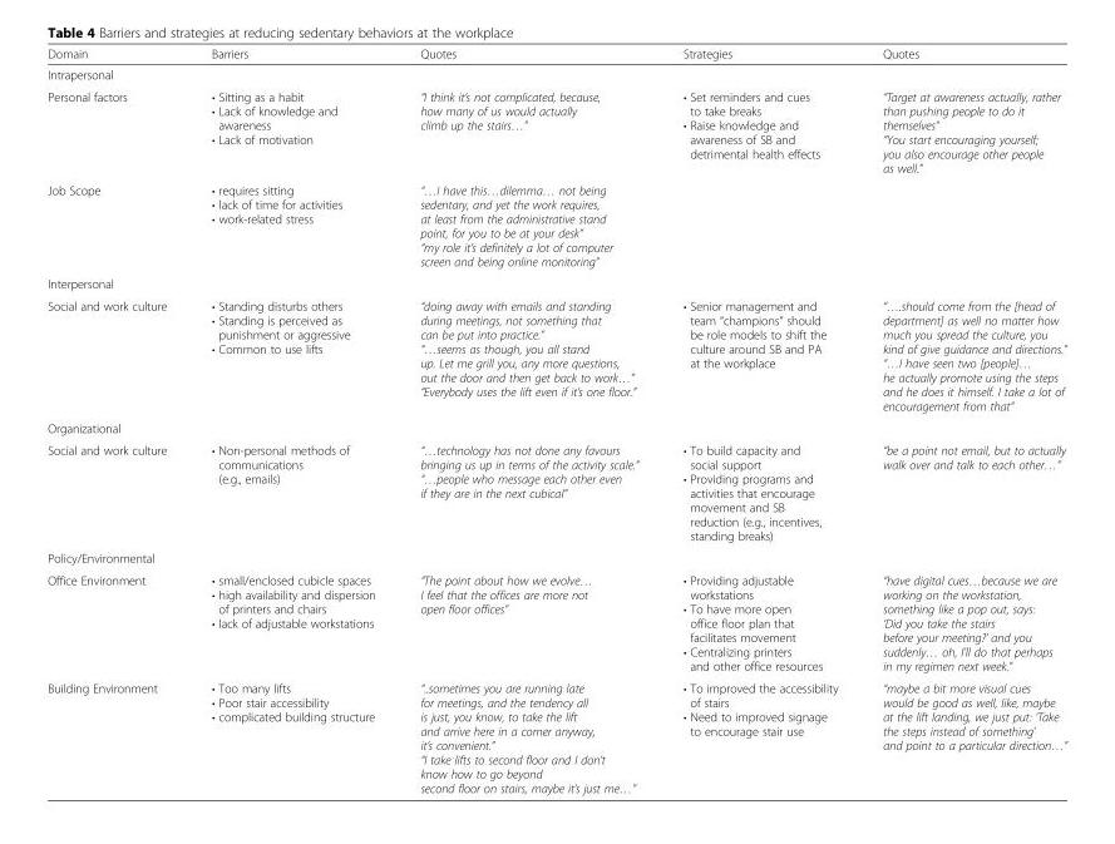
<table><thead><tr><td>Domain</td><td>Barriers</td><td>Quotes</td><td>Strategies</td><td>Quotes</td></tr></thead><tbody><tr><td colspan="5">Intrapersonal</td></tr><tr><td>Personal factors</td><td>• Sitting as a habit • Lack of knowledge and awareness • Lack of motivation</td><td>“I think it’s not complicated, because, how many of us would actually climb up the stairs…”</td><td>• Set reminders and cues to take breaks • Raise knowledge and awareness of SB and detrimental health effects</td><td>“Target at awareness actually, rather than pushing people to do it themselves” “You start encouraging yourself; you also encourage other people as well.”</td></tr><tr><td>Job Scope</td><td>• requires sitting • lack of time for activities • work-related stress</td><td>“…I have this…dilemma… not being sedentary, and yet the work requires, at least from the administrative stand point, for you to be at your desk” “my role it’s definitely a lot of computer screen and being online monitoring”</td><td></td><td></td></tr><tr><td colspan="5">Interpersonal</td></tr><tr><td>Social and work culture</td><td>• Standing disturbs others • Standing is perceived as punishment or aggressive • Common to use lifts</td><td>“doing away with emails and standing during meetings, not something that can be put into practice.” “…seems as though, you all stand up. Let me grill you, any more questions, out the door and then get back to work…” “Everybody uses the lift even if it’s one floor.”</td><td>• Senior management and team “champions” should be role models to shift the culture around SB and PA at the workplace</td><td>“….should come from the [head of department] as well no matter how much you spread the culture, you kind of give guidance and directions.” “…I have seen two [people]… he actually promote using the steps and he does it himself. I take a lot of encouragement from that”</td></tr><tr><td colspan="5">Organizational</td></tr><tr><td>Social and work culture</td><td>• Non-personal methods of communications (e.g., emails)</td><td>“…technology has not done any favours bringing us up in terms of the activity scale.” “…people who message each other even if they are in the next cubical”</td><td>• To build capacity and social support • Providing programs and activities that encourage movement and SB reduction (e.g., incentives, standing breaks)</td><td>“be a point not email, but to actually walk over and talk to each other…”</td></tr><tr><td colspan="5">Policy/Environmental</td></tr><tr><td>Office Environment</td><td>• small/enclosed cubicle spaces • high availability and dispersion of printers and chairs • lack of adjustable workstations</td><td>“The point about how we evolve… I feel that the offices are more not open floor offices”</td><td>• Providing adjustable workstations • To have more open office floor plan that facilitates movement • Centralizing printers and other office resources</td><td>“have digital cues…because we are working on the workstation, something like a pop out, says: ‘Did you take the stairs before your meeting?’ and you suddenly… oh, I’ll do that perhaps in my regimen next week.”</td></tr><tr><td>Building Environment</td><td>• Too many lifts • Poor stair accessibility • complicated building structure</td><td>“..sometimes you are running late for meetings, and the tendency all is just, you know, to take the lift and arrive here in a corner anyway, it’s convenient.” “I take lifts to second floor and I don’t know how to go beyond second floor on stairs, maybe it’s just me…”</td><td>• To improved the accessibility of stairs • Need to improved signage to encourage stair use</td><td>“maybe a bit more visual cues would be good as well, like, maybe at the lift landing, we just put: ‘Take the steps instead of something’ and point to a particular direction…”</td></tr></tbody></table>